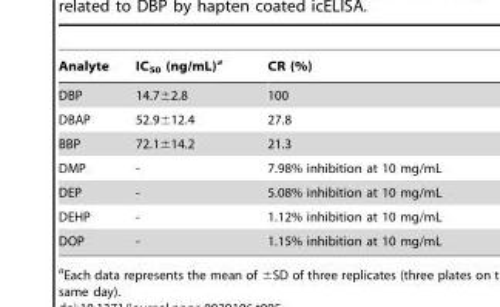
<table><thead><tr><td>Analyte</td><td>IC<sub>50</sub> (ng/mL)<sup>a</sup></td><td>CR (%)</td></tr></thead><tbody><tr><td>DBP</td><td>14.7±2.8</td><td>100</td></tr><tr><td>DBAP</td><td>52.9±12.4</td><td>27.8</td></tr><tr><td>BBP</td><td>72.1±14.2</td><td>21.3</td></tr><tr><td>DMP</td><td>-</td><td>7.98% inhibition at 10 mg/mL</td></tr><tr><td>DEP</td><td>-</td><td>5.08% inhibition at 10 mg/mL</td></tr><tr><td>DEHP</td><td>-</td><td>1.12% inhibition at 10 mg/mL</td></tr><tr><td>DOP</td><td>-</td><td>1.15% inhibition at 10 mg/mL</td></tr></tbody></table>